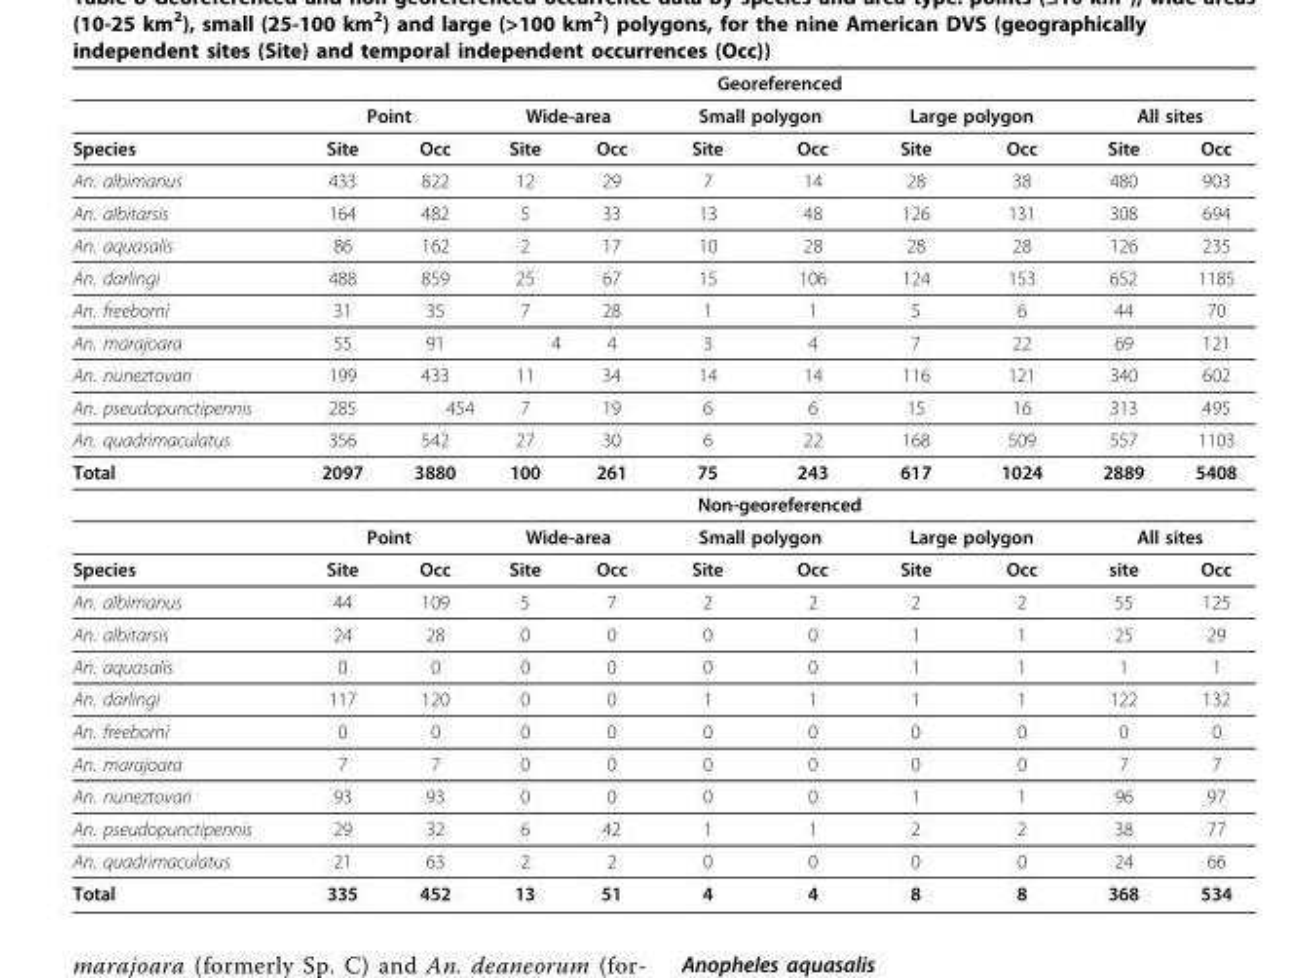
<table><thead><tr><td rowspan="3">Species</td><td colspan="10">Georeferenced</td></tr><tr><td colspan="2">Point</td><td colspan="2">Wide-area</td><td colspan="2">Small polygon</td><td colspan="2">Large polygon</td><td colspan="2">All sites</td></tr><tr><td>Site</td><td>Occ</td><td>Site</td><td>Occ</td><td>Site</td><td>Occ</td><td>Site</td><td>Occ</td><td>Site</td><td>Occ</td></tr></thead><tbody><tr><td>An. albimanus</td><td>433</td><td>822</td><td>12</td><td>29</td><td>7</td><td>14</td><td>28</td><td>38</td><td>480</td><td>903</td></tr><tr><td>An. albitarsis</td><td>164</td><td>482</td><td>5</td><td>33</td><td>13</td><td>48</td><td>126</td><td>131</td><td>308</td><td>694</td></tr><tr><td>An. aquasalis</td><td>86</td><td>162</td><td>2</td><td>17</td><td>10</td><td>28</td><td>28</td><td>28</td><td>126</td><td>235</td></tr><tr><td>An. darlingi</td><td>488</td><td>859</td><td>25</td><td>67</td><td>15</td><td>106</td><td>124</td><td>153</td><td>652</td><td>1185</td></tr><tr><td>An. freeborni</td><td>31</td><td>35</td><td>7</td><td>28</td><td>1</td><td>1</td><td>5</td><td>6</td><td>44</td><td>70</td></tr><tr><td>An. marajoara</td><td>55</td><td>91</td><td>4</td><td>4</td><td>3</td><td>4</td><td>7</td><td>22</td><td>69</td><td>121</td></tr><tr><td>An. nuneztovari</td><td>199</td><td>433</td><td>11</td><td>34</td><td>14</td><td>14</td><td>116</td><td>121</td><td>340</td><td>602</td></tr><tr><td>An. pseudopunctipennis</td><td>285</td><td>454</td><td>7</td><td>19</td><td>6</td><td>6</td><td>15</td><td>16</td><td>313</td><td>495</td></tr><tr><td>An. quadrimaculatus</td><td>356</td><td>542</td><td>27</td><td>30</td><td>6</td><td>22</td><td>168</td><td>509</td><td>557</td><td>1103</td></tr><tr><td rowspan="3">Total</td><td>2097</td><td>3880</td><td>100</td><td>261</td><td>75</td><td>243</td><td>617</td><td>1024</td><td>2889</td><td>5408</td></tr><tr><td colspan="10">Non-georeferenced</td></tr><tr><td colspan="2">Point</td><td colspan="2">Wide-area</td><td colspan="2">Small polygon</td><td colspan="2">Large polygon</td><td colspan="2">All sites</td></tr><tr><td>Species</td><td>Site</td><td>Occ</td><td>Site</td><td>Occ</td><td>Site</td><td>Occ</td><td>Site</td><td>Occ</td><td>site</td><td>Occ</td></tr><tr><td>An. albimanus</td><td>44</td><td>109</td><td>5</td><td>7</td><td>2</td><td>2</td><td>2</td><td>2</td><td>55</td><td>125</td></tr><tr><td>An. albitarsis</td><td>24</td><td>28</td><td>0</td><td>0</td><td>0</td><td>0</td><td>1</td><td>1</td><td>25</td><td>29</td></tr><tr><td>An. aquasalis</td><td>0</td><td>0</td><td>0</td><td>0</td><td>0</td><td>0</td><td>1</td><td>1</td><td>1</td><td>1</td></tr><tr><td>An. darlingi</td><td>117</td><td>120</td><td>0</td><td>0</td><td>1</td><td>1</td><td>1</td><td>1</td><td>122</td><td>132</td></tr><tr><td>An. freeborni</td><td>0</td><td>0</td><td>0</td><td>0</td><td>0</td><td>0</td><td>0</td><td>0</td><td>0</td><td>0</td></tr><tr><td>An. marajoara</td><td>7</td><td>7</td><td>0</td><td>0</td><td>0</td><td>0</td><td>0</td><td>0</td><td>7</td><td>7</td></tr><tr><td>An. nuneztovari</td><td>93</td><td>93</td><td>0</td><td>0</td><td>0</td><td>0</td><td>1</td><td>1</td><td>96</td><td>97</td></tr><tr><td>An. pseudopunctipennis</td><td>29</td><td>32</td><td>6</td><td>42</td><td>1</td><td>1</td><td>2</td><td>2</td><td>38</td><td>77</td></tr><tr><td>An. quadrimaculatus</td><td>21</td><td>63</td><td>2</td><td>2</td><td>0</td><td>0</td><td>0</td><td>0</td><td>24</td><td>66</td></tr><tr><td>Total</td><td>335</td><td>452</td><td>13</td><td>51</td><td>4</td><td>4</td><td>8</td><td>8</td><td>368</td><td>534</td></tr></tbody></table>